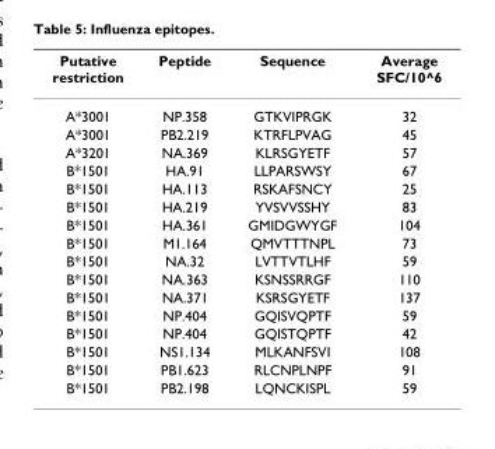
<table><thead><tr><td>Putative restriction</td><td>Peptide</td><td>Sequence</td><td>Average SFC/10^6</td></tr></thead><tbody><tr><td>A*3001</td><td>NP.358</td><td>GTKVIPRGK</td><td>32</td></tr><tr><td>A*3001</td><td>PB2.219</td><td>KTRFLPVAG</td><td>45</td></tr><tr><td>A*3201</td><td>NA.369</td><td>KLRSGYETF</td><td>57</td></tr><tr><td>B*1501</td><td>HA.91</td><td>LLPARSWSY</td><td>67</td></tr><tr><td>B*1501</td><td>HA.113</td><td>RSKAFSNCY</td><td>25</td></tr><tr><td>B*1501</td><td>HA.219</td><td>YVSVVSSHY</td><td>83</td></tr><tr><td>B*1501</td><td>HA.361</td><td>GMIDGWYGF</td><td>104</td></tr><tr><td>B*1501</td><td>M1.164</td><td>QMVTTTNPL</td><td>73</td></tr><tr><td>B*1501</td><td>NA.32</td><td>LVTTVTLHF</td><td>59</td></tr><tr><td>B*1501</td><td>NA.363</td><td>KSNSSRRGF</td><td>110</td></tr><tr><td>B*1501</td><td>NA.371</td><td>KSRSGYETF</td><td>137</td></tr><tr><td>B*1501</td><td>NP.404</td><td>GQISVQPTF</td><td>59</td></tr><tr><td>B*1501</td><td>NP.404</td><td>GQISTQPTF</td><td>42</td></tr><tr><td>B*1501</td><td>NS1.134</td><td>MLKANFSVI</td><td>108</td></tr><tr><td>B*1501</td><td>PB1.623</td><td>RLCNPLNPF</td><td>91</td></tr><tr><td>B*1501</td><td>PB2.198</td><td>LQNCKISPL</td><td>59</td></tr></tbody></table>